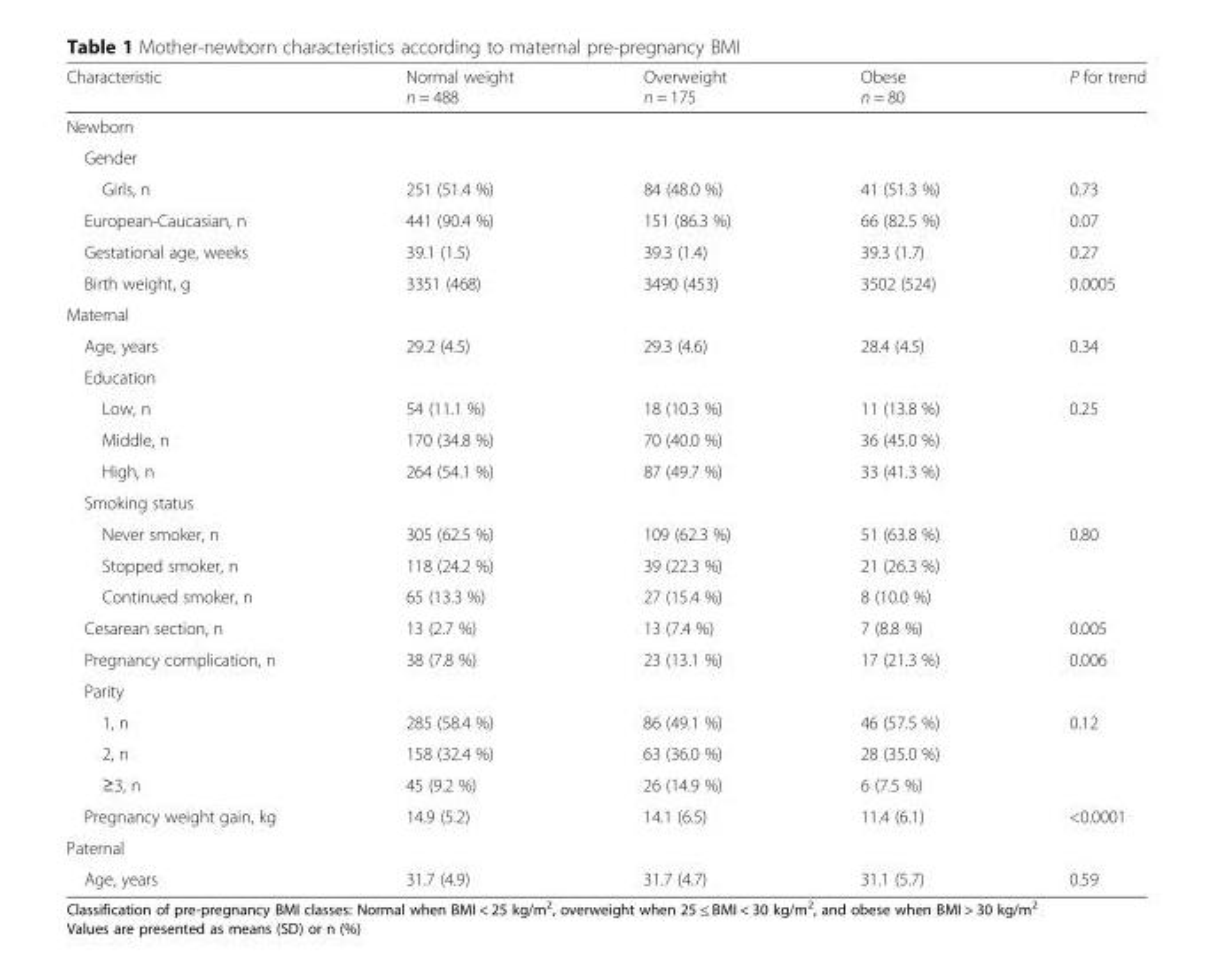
<table><thead><tr><td>Characteristic</td><td>Normal weight n = 488</td><td>Overweight n = 175</td><td>Obese n = 80</td><td>P for trend</td></tr></thead><tbody><tr><td colspan="5">Newborn</td></tr><tr><td colspan="5">Gender</td></tr><tr><td>Girls, n</td><td>251 (51.4 %)</td><td>84 (48.0 %)</td><td>41 (51.3 %)</td><td>0.73</td></tr><tr><td>European-Caucasian, n</td><td>441 (90.4 %)</td><td>151 (86.3 %)</td><td>66 (82.5 %)</td><td>0.07</td></tr><tr><td>Gestational age, weeks</td><td>39.1 (1.5)</td><td>39.3 (1.4)</td><td>39.3 (1.7)</td><td>0.27</td></tr><tr><td>Birth weight, g</td><td>3351 (468)</td><td>3490 (453)</td><td>3502 (524)</td><td>0.0005</td></tr><tr><td colspan="5">Maternal</td></tr><tr><td>Age, years</td><td>29.2 (4.5)</td><td>29.3 (4.6)</td><td>28.4 (4.5)</td><td>0.34</td></tr><tr><td colspan="5">Education</td></tr><tr><td>Low, n</td><td>54 (11.1 %)</td><td>18 (10.3 %)</td><td>11 (13.8 %)</td><td>0.25</td></tr><tr><td>Middle, n</td><td>170 (34.8 %)</td><td>70 (40.0 %)</td><td>36 (45.0 %)</td><td></td></tr><tr><td>High, n</td><td>264 (54.1 %)</td><td>87 (49.7 %)</td><td>33 (41.3 %)</td><td></td></tr><tr><td colspan="5">Smoking status</td></tr><tr><td>Never smoker, n</td><td>305 (62.5 %)</td><td>109 (62.3 %)</td><td>51 (63.8 %)</td><td>0.80</td></tr><tr><td>Stopped smoker, n</td><td>118 (24.2 %)</td><td>39 (22.3 %)</td><td>21 (26.3 %)</td><td></td></tr><tr><td>Continued smoker, n</td><td>65 (13.3 %)</td><td>27 (15.4 %)</td><td>8 (10.0 %)</td><td></td></tr><tr><td>Cesarean section, n</td><td>13 (2.7 %)</td><td>13 (7.4 %)</td><td>7 (8.8 %)</td><td>0.005</td></tr><tr><td>Pregnancy complication, n</td><td>38 (7.8 %)</td><td>23 (13.1 %)</td><td>17 (21.3 %)</td><td>0.006</td></tr><tr><td colspan="5">Parity</td></tr><tr><td>1, n</td><td>285 (58.4 %)</td><td>86 (49.1 %)</td><td>46 (57.5 %)</td><td>0.12</td></tr><tr><td>2, n</td><td>158 (32.4 %)</td><td>63 (36.0 %)</td><td>28 (35.0 %)</td><td></td></tr><tr><td>≥3, n</td><td>45 (9.2 %)</td><td>26 (14.9 %)</td><td>6 (7.5 %)</td><td></td></tr><tr><td>Pregnancy weight gain, kg</td><td>14.9 (5.2)</td><td>14.1 (6.5)</td><td>11.4 (6.1)</td><td>&lt;0.0001</td></tr><tr><td colspan="5">Paternal</td></tr><tr><td>Age, years</td><td>31.7 (4.9)</td><td>31.7 (4.7)</td><td>31.1 (5.7)</td><td>0.59</td></tr></tbody></table>